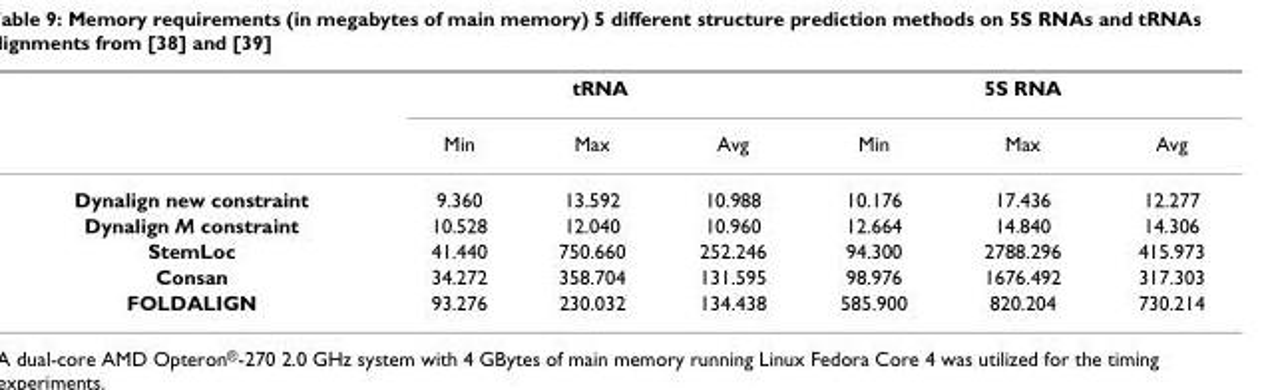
<table><thead><tr><td rowspan="2"></td><td colspan="3">tRNA</td><td colspan="3">5S RNA</td></tr><tr><td>Min</td><td>Max</td><td>Avg</td><td>Min</td><td>Max</td><td>Avg</td></tr></thead><tbody><tr><td>Dynalign new constraint</td><td>9.360</td><td>13.592</td><td>10.988</td><td>10.176</td><td>17.436</td><td>12.277</td></tr><tr><td>Dynalign M constraint</td><td>10.528</td><td>12.040</td><td>10.960</td><td>12.664</td><td>14.840</td><td>14.306</td></tr><tr><td>StemLoc</td><td>41.440</td><td>750.660</td><td>252.246</td><td>94.300</td><td>2788.296</td><td>415.973</td></tr><tr><td>Consan</td><td>34.272</td><td>358.704</td><td>131.595</td><td>98.976</td><td>1676.492</td><td>317.303</td></tr><tr><td>FOLDALIGN</td><td>93.276</td><td>230.032</td><td>134.438</td><td>585.900</td><td>820.204</td><td>730.214</td></tr></tbody></table>